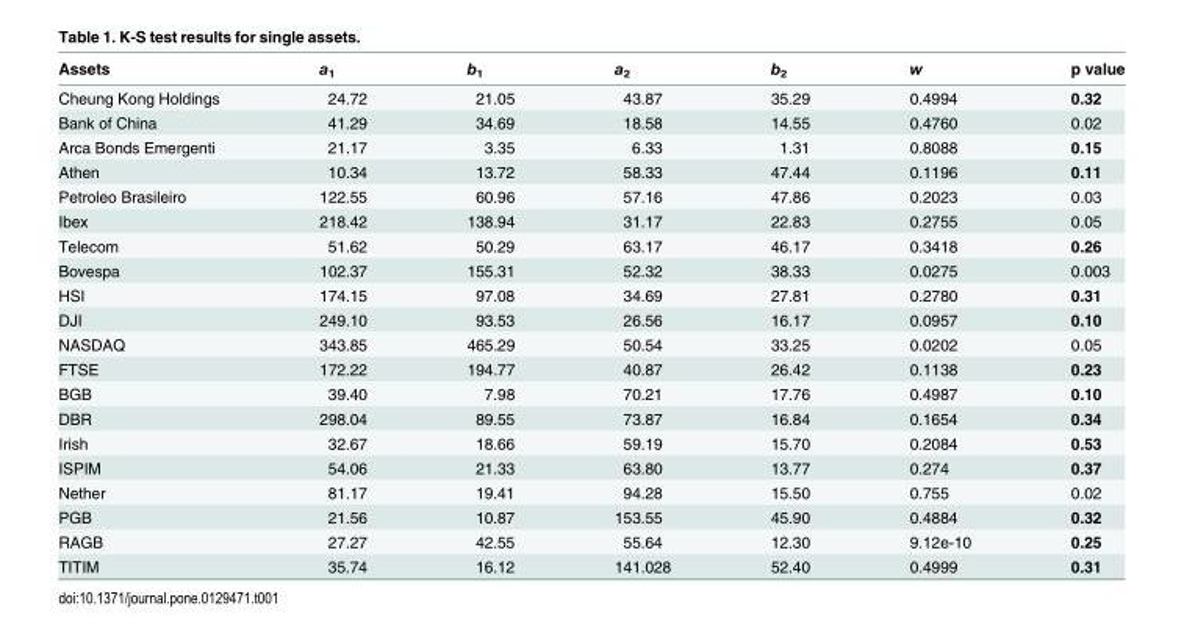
<table><thead><tr><td>Assets</td><td>a<sub>1</sub></td><td>b<sub>1</sub></td><td>a<sub>2</sub></td><td>b<sub>2</sub></td><td>w</td><td>p value</td></tr></thead><tbody><tr><td>Cheung Kong Holdings</td><td>24.72</td><td>21.05</td><td>43.87</td><td>35.29</td><td>0.4994</td><td>0.32</td></tr><tr><td>Bank of China</td><td>41.29</td><td>34.69</td><td>18.58</td><td>14.55</td><td>0.4760</td><td>0.02</td></tr><tr><td>Arca Bonds Emergenti</td><td>21.17</td><td>3.35</td><td>6.33</td><td>1.31</td><td>0.8088</td><td>0.15</td></tr><tr><td>Athen</td><td>10.34</td><td>13.72</td><td>58.33</td><td>47.44</td><td>0.1196</td><td>0.11</td></tr><tr><td>Petroleo Brasileiro</td><td>122.55</td><td>60.96</td><td>57.16</td><td>47.86</td><td>0.2023</td><td>0.03</td></tr><tr><td>Ibex</td><td>218.42</td><td>138.94</td><td>31.17</td><td>22.83</td><td>0.2755</td><td>0.05</td></tr><tr><td>Telecom</td><td>51.62</td><td>50.29</td><td>63.17</td><td>46.17</td><td>0.3418</td><td>0.26</td></tr><tr><td>Bovespa</td><td>102.37</td><td>155.31</td><td>52.32</td><td>38.33</td><td>0.0275</td><td>0.003</td></tr><tr><td>HSI</td><td>174.15</td><td>97.08</td><td>34.69</td><td>27.81</td><td>0.2780</td><td>0.31</td></tr><tr><td>DJI</td><td>249.10</td><td>93.53</td><td>26.56</td><td>16.17</td><td>0.0957</td><td>0.10</td></tr><tr><td>NASDAQ</td><td>343.85</td><td>465.29</td><td>50.54</td><td>33.25</td><td>0.0202</td><td>0.05</td></tr><tr><td>FTSE</td><td>172.22</td><td>194.77</td><td>40.87</td><td>26.42</td><td>0.1138</td><td>0.23</td></tr><tr><td>BGB</td><td>39.40</td><td>7.98</td><td>70.21</td><td>17.76</td><td>0.4987</td><td>0.10</td></tr><tr><td>DBR</td><td>298.04</td><td>89.55</td><td>73.87</td><td>16.84</td><td>0.1654</td><td>0.34</td></tr><tr><td>Irish</td><td>32.67</td><td>18.66</td><td>59.19</td><td>15.70</td><td>0.2084</td><td>0.53</td></tr><tr><td>ISPIM</td><td>54.06</td><td>21.33</td><td>63.80</td><td>13.77</td><td>0.274</td><td>0.37</td></tr><tr><td>Nether</td><td>81.17</td><td>19.41</td><td>94.28</td><td>15.50</td><td>0.755</td><td>0.02</td></tr><tr><td>PGB</td><td>21.56</td><td>10.87</td><td>153.55</td><td>45.90</td><td>0.4884</td><td>0.32</td></tr><tr><td>RAGB</td><td>27.27</td><td>42.55</td><td>55.64</td><td>12.30</td><td>9.12e-10</td><td>0.25</td></tr><tr><td>TITIM</td><td>35.74</td><td>16.12</td><td>141.028</td><td>52.40</td><td>0.4999</td><td>0.31</td></tr></tbody></table>